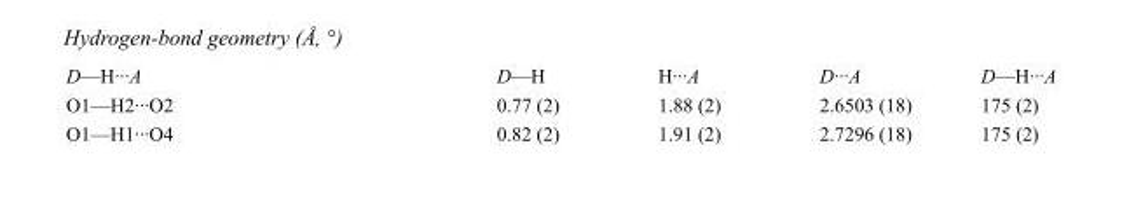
<table><tbody><tr><td>D—H···A</td><td>D—H</td><td>H···A</td><td>D···A</td><td>D—H···A</td></tr><tr><td>O1—H2···O2</td><td>0.77 (2)</td><td>1.88 (2)</td><td>2.6503 (18)</td><td>175 (2)</td></tr><tr><td>O1—H1···O4</td><td>0.82 (2)</td><td>1.91 (2)</td><td>2.7296 (18)</td><td>175 (2)</td></tr></tbody></table>